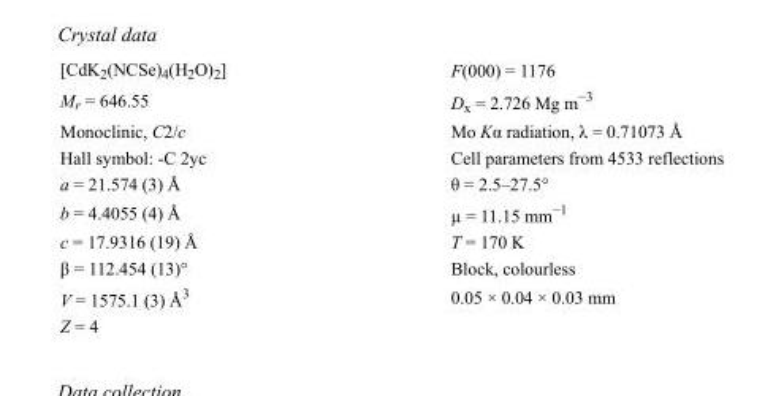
<table><tbody><tr><td>[CdK<sub>2</sub>(NCSe)<sub>4</sub>(H<sub>2</sub>O)<sub>2</sub>]</td><td>F(000) = 1176</td></tr><tr><td>M<sub>r</sub> = 646.55</td><td>D<sub>x</sub> = 2.726 Mg m<sup>−3</sup></td></tr><tr><td>Monoclinic, C2/c</td><td>Mo Kα radiation, λ = 0.71073 Å</td></tr><tr><td>Hall symbol: -C 2yc</td><td>Cell parameters from 4533 reflections</td></tr><tr><td>a = 21.574 (3) Å</td><td>θ = 2.5–27.5°</td></tr><tr><td>b = 4.4055 (4) Å</td><td>µ = 11.15 mm<sup>−1</sup></td></tr><tr><td>c = 17.9316 (19) Å</td><td>T = 170 K</td></tr><tr><td>β = 112.454 (13)°</td><td>Block, colourless</td></tr><tr><td>V = 1575.1 (3) Å<sup>3</sup></td><td>0.05 × 0.04 × 0.03 mm</td></tr><tr><td>Z = 4</td><td></td></tr></tbody></table>